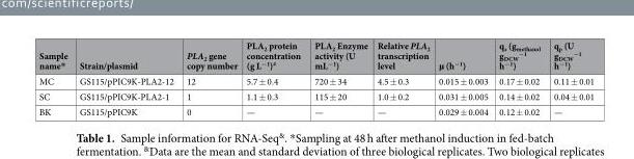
<table><thead><tr><td>Sample name*</td><td>Strain/plasmid</td><td>PLA<sub>2</sub> gene copy number</td><td>PLA<sub>2</sub> protein concentration (g L<sup>−1</sup>)<sup>#</sup></td><td>PLA<sub>2</sub> Enzyme activity (U mL<sup>−1</sup>)</td><td>Relative PLA<sub>2</sub> transcription level</td><td>µ (h<sup>−1</sup>)</td><td>q<sub>s</sub> (g<sub>methanol</sub> g<sub>DCW</sub> <sup>−1</sup> h<sup>−1</sup>)</td><td>q<sub>p</sub> (U g<sub>DCW</sub> <sup>−1</sup> h<sup>−1</sup>)</td></tr></thead><tbody><tr><td>MC</td><td>GS115/pPIC9K-PLA2-12</td><td>12</td><td>5.7 ± 0.4</td><td>720 ± 34</td><td>4.5 ± 0.3</td><td>0.015 ± 0.003</td><td>0.17 ± 0.02</td><td>0.11 ± 0.01</td></tr><tr><td>SC</td><td>GS115/pPIC9K-PLA2-1</td><td>1</td><td>1.1 ± 0.3</td><td>115 ± 20</td><td>1.0 ± 0.2</td><td>0.031 ± 0.005</td><td>0.14 ± 0.02</td><td>0.04 ± 0.01</td></tr><tr><td>BK</td><td>GS115/pPIC9K</td><td>0</td><td>—</td><td>—</td><td>—</td><td>0.029 ± 0.004</td><td>0.12 ± 0.02</td><td>—</td></tr></tbody></table>